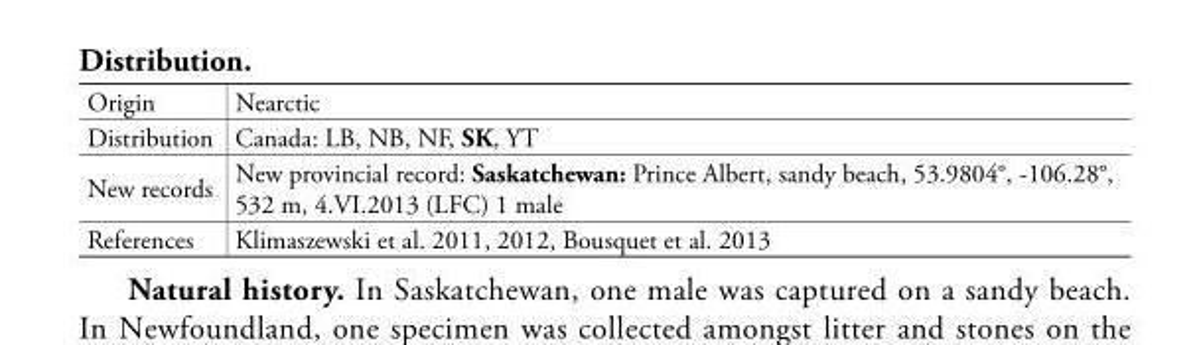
<table><tbody><tr><td>Origin</td><td>Nearctic</td></tr><tr><td>Distribution</td><td>Canada: LB, NB, NF, SK, YT</td></tr><tr><td>New records</td><td>New provincial record: Saskatchewan: Prince Albert, sandy beach, 53.9804°, -106.28°, 532 m, 4.VI.2013 (LFC) 1 male</td></tr><tr><td>References</td><td>Klimaszewski et al. 2011, 2012, Bousquet et al. 2013</td></tr></tbody></table>